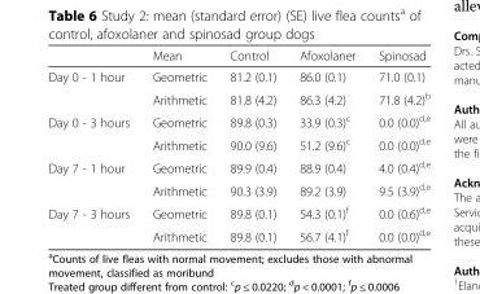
<table><thead><tr><td></td><td>Mean</td><td>Control</td><td>Afoxolaner</td><td>Spinosad</td></tr></thead><tbody><tr><td rowspan="2">Day 0 - 1 hour</td><td>Geometric</td><td>81.2 (0.1)</td><td>86.0 (0.1)</td><td>71.0 (0.1)</td></tr><tr><td>Arithmetic</td><td>81.8 (4.2)</td><td>86.3 (4.2)</td><td>71.8 (4.2)<sup>b</sup></td></tr><tr><td rowspan="2">Day 0 - 3 hours</td><td>Geometric</td><td>89.8 (0.3)</td><td>33.9 (0.3)<sup>c</sup></td><td>0.0 (0.0)<sup>d,e</sup></td></tr><tr><td>Arithmetic</td><td>90.0 (9.6)</td><td>51.2 (9.6)<sup>c</sup></td><td>0.0 (0.0)<sup>d,e</sup></td></tr><tr><td rowspan="2">Day 7 - 1 hour</td><td>Geometric</td><td>89.9 (0.4)</td><td>88.9 (0.4)</td><td>4.0 (0.4)<sup>d,e</sup></td></tr><tr><td>Arithmetic</td><td>90.3 (3.9)</td><td>89.2 (3.9)</td><td>9.5 (3.9)<sup>d,e</sup></td></tr><tr><td rowspan="2">Day 7 - 3 hours</td><td>Geometric</td><td>89.8 (0.1)</td><td>54.3 (0.1)<sup>f</sup></td><td>0.0 (0.6)<sup>d,e</sup></td></tr><tr><td>Arithmetic</td><td>89.8 (0.1)</td><td>56.7 (4.1)<sup>f</sup></td><td>0.0 (0.0)<sup>d,e</sup></td></tr></tbody></table>